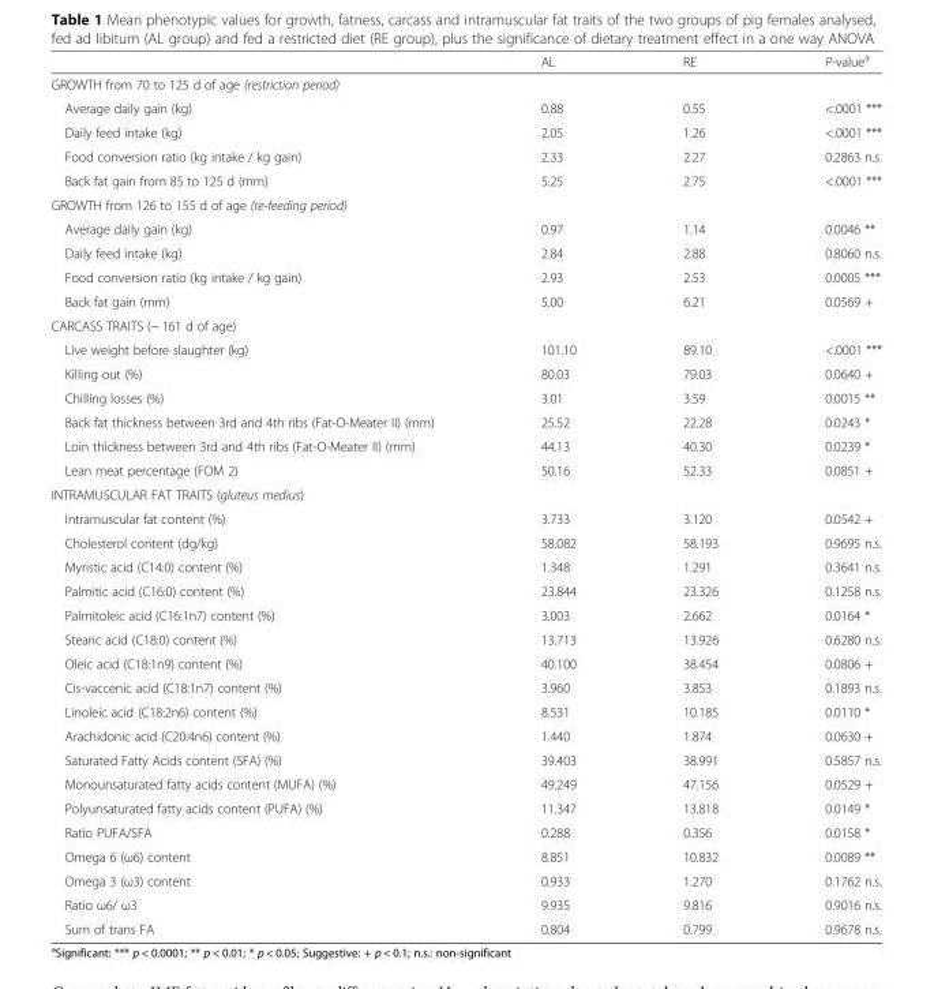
<table><thead><tr><td></td><td>AL</td><td>RE</td><td>P-value<sup>a</sup></td></tr></thead><tbody><tr><td colspan="4">GROWTH from 70 to 125 d of age (restriction period)</td></tr><tr><td>Average daily gain (kg)</td><td>0.88</td><td>0.55</td><td>&lt;.0001 ***</td></tr><tr><td>Daily feed intake (kg)</td><td>2.05</td><td>1.26</td><td>&lt;.0001 ***</td></tr><tr><td>Food conversion ratio (kg intake / kg gain)</td><td>2.33</td><td>2.27</td><td>0.2863 n.s.</td></tr><tr><td>Back fat gain from 85 to 125 d (mm)</td><td>5.25</td><td>2.75</td><td>&lt;.0001 ***</td></tr><tr><td colspan="4">GROWTH from 126 to 155 d of age (re-feeding period)</td></tr><tr><td>Average daily gain (kg)</td><td>0.97</td><td>1.14</td><td>0.0046 **</td></tr><tr><td>Daily feed intake (kg)</td><td>2.84</td><td>2.88</td><td>0.8060 n.s.</td></tr><tr><td>Food conversion ratio (kg intake / kg gain)</td><td>2.93</td><td>2.53</td><td>0.0005 ***</td></tr><tr><td>Back fat gain (mm)</td><td>5.00</td><td>6.21</td><td>0.0569 +</td></tr><tr><td colspan="4">CARCASS TRAITS (~ 161 d of age)</td></tr><tr><td>Live weight before slaughter (kg)</td><td>101.10</td><td>89.10</td><td>&lt;.0001 ***</td></tr><tr><td>Killing out (%)</td><td>80.03</td><td>79.03</td><td>0.0640 +</td></tr><tr><td>Chilling losses (%)</td><td>3.01</td><td>3.59</td><td>0.0015 **</td></tr><tr><td>Back fat thickness between 3rd and 4th ribs (Fat-O-Meater II) (mm)</td><td>25.52</td><td>22.28</td><td>0.0243 *</td></tr><tr><td>Loin thickness between 3rd and 4th ribs (Fat-O-Meater II) (mm)</td><td>44.13</td><td>40.30</td><td>0.0239 *</td></tr><tr><td>Lean meat percentage (FOM 2)</td><td>50.16</td><td>52.33</td><td>0.0851 +</td></tr><tr><td colspan="4">INTRAMUSCULAR FAT TRAITS (gluteus medius)</td></tr><tr><td>Intramuscular fat content (%)</td><td>3.733</td><td>3.120</td><td>0.0542 +</td></tr><tr><td>Cholesterol content (dg/kg)</td><td>58.082</td><td>58.193</td><td>0.9695 n.s.</td></tr><tr><td>Myristic acid (C14:0) content (%)</td><td>1.348</td><td>1.291</td><td>0.3641 n.s.</td></tr><tr><td>Palmitic acid (C16:0) content (%)</td><td>23.844</td><td>23.326</td><td>0.1258 n.s.</td></tr><tr><td>Palmitoleic acid (C16:1n7) content (%)</td><td>3.003</td><td>2.662</td><td>0.0164 *</td></tr><tr><td>Stearic acid (C18:0) content (%)</td><td>13.713</td><td>13.926</td><td>0.6280 n.s.</td></tr><tr><td>Oleic acid (C18:1n9) content (%)</td><td>40.100</td><td>38.454</td><td>0.0806 +</td></tr><tr><td>Cis-vaccenic acid (C18:1n7) content (%)</td><td>3.960</td><td>3.853</td><td>0.1893 n.s.</td></tr><tr><td>Linoleic acid (C18:2n6) content (%)</td><td>8.531</td><td>10.185</td><td>0.0110 *</td></tr><tr><td>Arachidonic acid (C20:4n6) content (%)</td><td>1.440</td><td>1.874</td><td>0.0630 +</td></tr><tr><td>Saturated Fatty Acids content (SFA) (%)</td><td>39.403</td><td>38.991</td><td>0.5857 n.s.</td></tr><tr><td>Monounsaturated fatty acids content (MUFA) (%)</td><td>49.249</td><td>47.156</td><td>0.0529 +</td></tr><tr><td>Polyunsaturated fatty acids content (PUFA) (%)</td><td>11.347</td><td>13.818</td><td>0.0149 *</td></tr><tr><td>Ratio PUFA/SFA</td><td>0.288</td><td>0.356</td><td>0.0158 *</td></tr><tr><td>Omega 6 (ω6) content</td><td>8.851</td><td>10.832</td><td>0.0089 **</td></tr><tr><td>Omega 3 (ω3) content</td><td>0.933</td><td>1.270</td><td>0.1762 n.s.</td></tr><tr><td>Ratio ω6/ ω3</td><td>9.935</td><td>9.816</td><td>0.9016 n.s.</td></tr><tr><td>Sum of trans FA</td><td>0.804</td><td>0.799</td><td>0.9678 n.s.</td></tr></tbody></table>